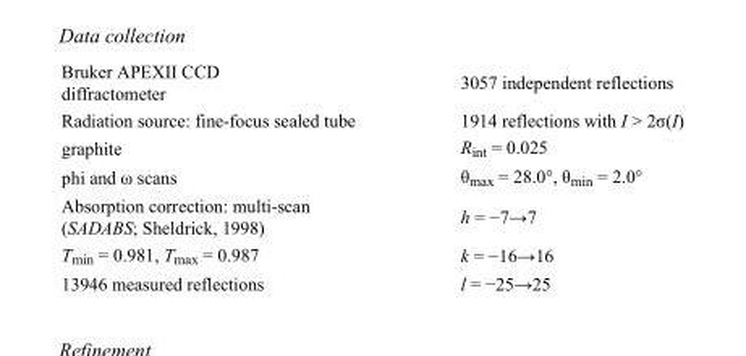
<table><tbody><tr><td>Bruker APEXII CCD diffractometer</td><td>3057 independent reflections</td></tr><tr><td>Radiation source: fine-focus sealed tube</td><td>1914 reflections with I &gt; 2σ(I)</td></tr><tr><td>graphite</td><td>R<sub>int</sub> = 0.025</td></tr><tr><td>phi and ω scans</td><td>θ<sub>max</sub> = 28.0°, θ<sub>min</sub> = 2.0°</td></tr><tr><td>Absorption correction: multi-scan (SADABS; Sheldrick, 1998)</td><td>h = −7→7</td></tr><tr><td>T<sub>min</sub> = 0.981, T<sub>max</sub> = 0.987</td><td>k = −16→16</td></tr><tr><td>13946 measured reflections</td><td>l = −25→25</td></tr></tbody></table>